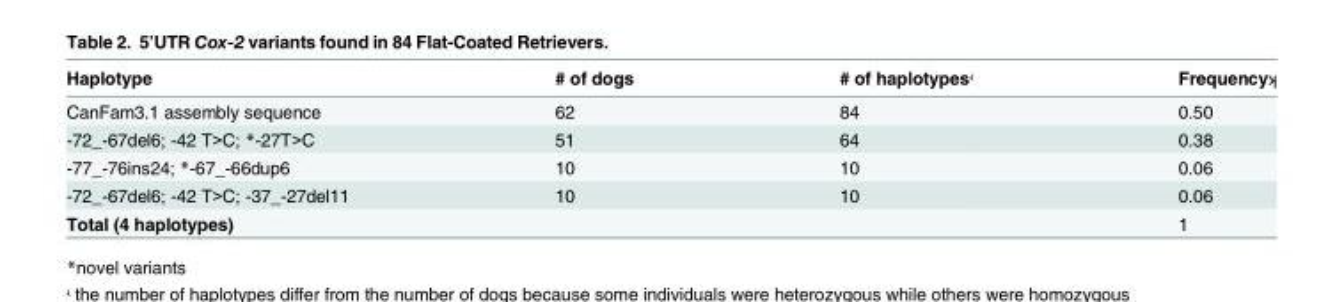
<table><thead><tr><td>Haplotype</td><td># of dogs</td><td># of haplotypesʵ</td><td>Frequencyʞ</td></tr></thead><tbody><tr><td>CanFam3.1 assembly sequence</td><td>62</td><td>84</td><td>0.50</td></tr><tr><td>-72_-67del6; -42 T&gt;C; *-27T&gt;C</td><td>51</td><td>64</td><td>0.38</td></tr><tr><td>-77_-76ins24; *-67_-66dup6</td><td>10</td><td>10</td><td>0.06</td></tr><tr><td>-72_-67del6; -42 T&gt;C; -37_-27del11</td><td>10</td><td>10</td><td>0.06</td></tr><tr><td colspan="3">Total (4 haplotypes)</td><td>1</td></tr></tbody></table>